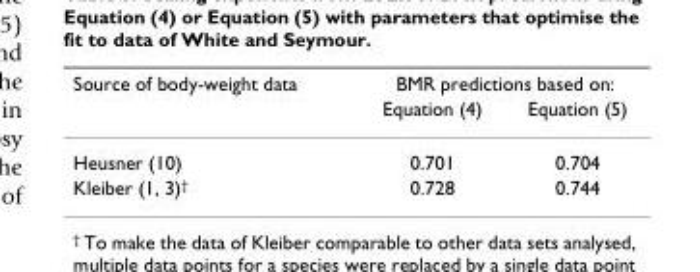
<table><thead><tr><td rowspan="2">Source of body-weight data</td><td colspan="2">BMR predictions based on:</td></tr><tr><td>Equation (4)</td><td>Equation (5)</td></tr></thead><tbody><tr><td>Heusner (10)</td><td>0.701</td><td>0.704</td></tr><tr><td>Kleiber (1, 3)<sup>†</sup></td><td>0.728</td><td>0.744</td></tr></tbody></table>